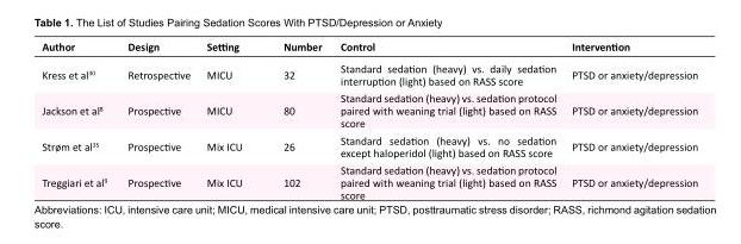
<table><tbody><tr><td>Author</td><td>Design</td><td>Setting</td><td>Number</td><td>Control</td><td>Intervention</td></tr><tr><td>Kress et al<sup>30</sup></td><td>Retrospective</td><td>MICU</td><td>32</td><td>Standard sedation (heavy) vs. daily sedation interruption (light) based on RASS score</td><td>PTSD or anxiety/depression</td></tr><tr><td>Jackson et al<sup>8</sup></td><td>Prospective</td><td>MICU</td><td>80</td><td>Standard sedation (heavy) vs. sedation protocol paired with weaning trial (light) based on RASS score</td><td>PTSD or anxiety/depression</td></tr><tr><td>Strøm et al<sup>35</sup></td><td>Prospective</td><td>Mix ICU</td><td>26</td><td>Standard sedation (heavy) vs. no sedation except haloperidol (light) based on RASS score</td><td>PTSD or anxiety/depression</td></tr><tr><td>Treggiari et al<sup>9</sup></td><td>Prospective</td><td>Mix ICU</td><td>102</td><td>Standard sedation (heavy) vs. sedation protocol paired with weaning trial (light) based on RASS score</td><td>PTSD or anxiety/depression</td></tr></tbody></table>